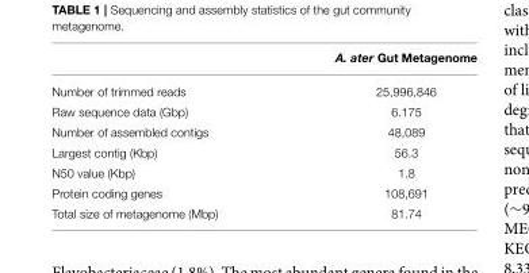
<table><thead><tr><td></td><td>A. ater Gut Metagenome</td></tr></thead><tbody><tr><td>Number of trimmed reads</td><td>25,996,846</td></tr><tr><td>Raw sequence data (Gbp)</td><td>6.175</td></tr><tr><td>Number of assembled contigs</td><td>48,089</td></tr><tr><td>Largest contig (Kbp)</td><td>56.3</td></tr><tr><td>N50 value (Kbp)</td><td>1.8</td></tr><tr><td>Protein coding genes</td><td>108,691</td></tr><tr><td>Total size of metagenome (Mbp)</td><td>81.74</td></tr></tbody></table>